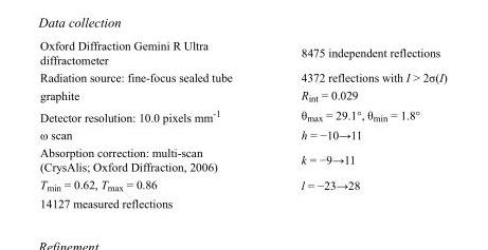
<table><tbody><tr><td>Oxford Diffraction Gemini R Ultra diffractometer</td><td>8475 independent reflections</td></tr><tr><td>Radiation source: fine-focus sealed tube</td><td>4372 reflections with I &gt; 2σ(I)</td></tr><tr><td>graphite</td><td>R<sub>int</sub> = 0.029</td></tr><tr><td>Detector resolution: 10.0 pixels mm<sup>-1</sup></td><td>θ<sub>max</sub> = 29.1°, θ<sub>min</sub> = 1.8°</td></tr><tr><td>ω scan</td><td>h = −10→11</td></tr><tr><td>Absorption correction: multi-scan (CrysAlis; Oxford Diffraction, 2006)</td><td>k = −9→11</td></tr><tr><td>T<sub>min</sub> = 0.62, T<sub>max</sub> = 0.86</td><td>l = −23→28</td></tr><tr><td>14127 measured reflections</td><td></td></tr></tbody></table>